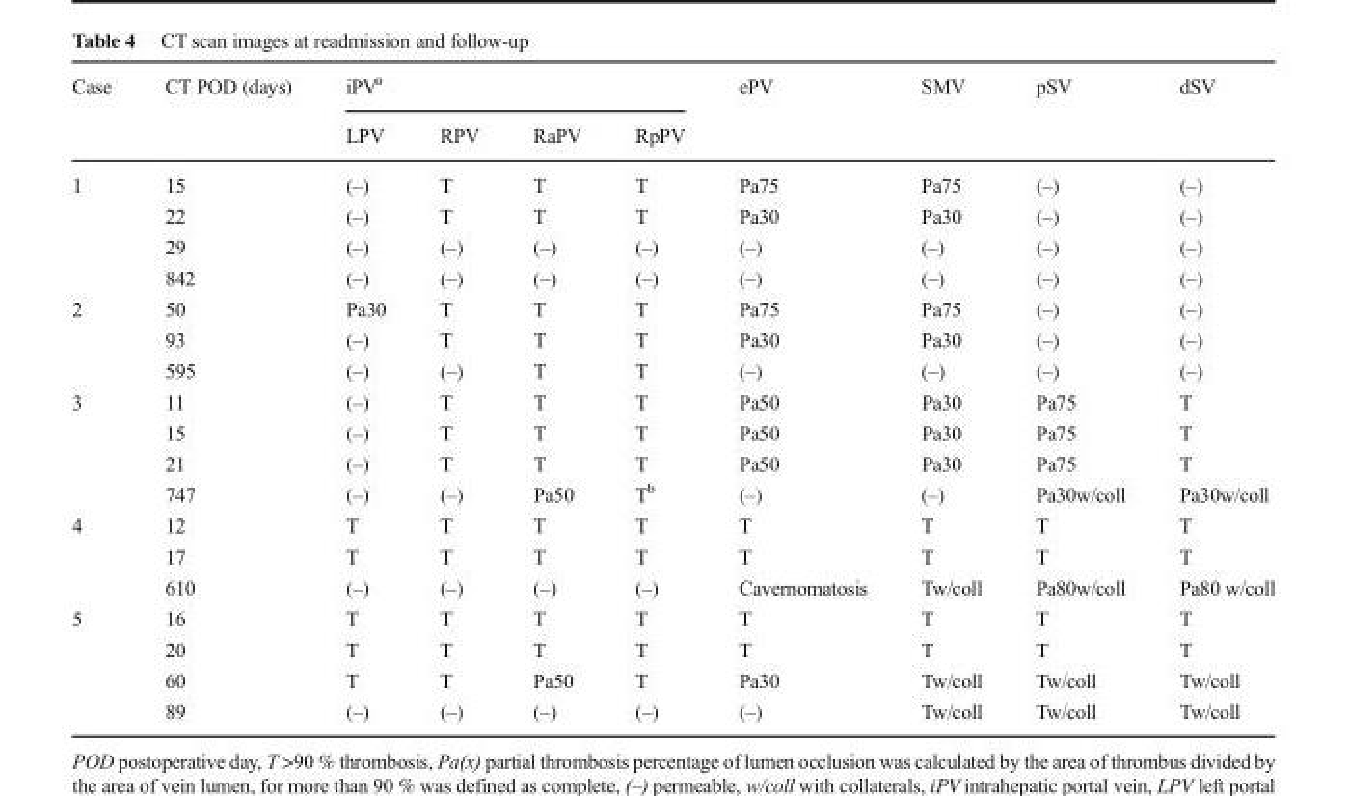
<table><thead><tr><td rowspan="2">Case</td><td rowspan="2">CT POD (days)</td><td colspan="4">iPV<sup>a</sup></td><td rowspan="2">ePV</td><td rowspan="2">SMV</td><td rowspan="2">pSV</td><td rowspan="2">dSV</td></tr><tr><td>LPV</td><td>RPV</td><td>RaPV</td><td>RpPV</td></tr></thead><tbody><tr><td rowspan="4">1</td><td>15</td><td>(–)</td><td>T</td><td>T</td><td>T</td><td>Pa75</td><td>Pa75</td><td>(–)</td><td>(–)</td></tr><tr><td>22</td><td>(–)</td><td>T</td><td>T</td><td>T</td><td>Pa30</td><td>Pa30</td><td>(–)</td><td>(–)</td></tr><tr><td>29</td><td>(–)</td><td>(–)</td><td>(–)</td><td>(–)</td><td>(–)</td><td>(–)</td><td>(–)</td><td>(–)</td></tr><tr><td>842</td><td>(–)</td><td>(–)</td><td>(–)</td><td>(–)</td><td>(–)</td><td>(–)</td><td>(–)</td><td>(–)</td></tr><tr><td rowspan="3">2</td><td>50</td><td>Pa30</td><td>T</td><td>T</td><td>T</td><td>Pa75</td><td>Pa75</td><td>(–)</td><td>(–)</td></tr><tr><td>93</td><td>(–)</td><td>T</td><td>T</td><td>T</td><td>Pa30</td><td>Pa30</td><td>(–)</td><td>(–)</td></tr><tr><td>595</td><td>(–)</td><td>(–)</td><td>T</td><td>T</td><td>(–)</td><td>(–)</td><td>(–)</td><td>(–)</td></tr><tr><td rowspan="4">3</td><td>11</td><td>(–)</td><td>T</td><td>T</td><td>T</td><td>Pa50</td><td>Pa30</td><td>Pa75</td><td>T</td></tr><tr><td>15</td><td>(–)</td><td>T</td><td>T</td><td>T</td><td>Pa50</td><td>Pa30</td><td>Pa75</td><td>T</td></tr><tr><td>21</td><td>(–)</td><td>T</td><td>T</td><td>T</td><td>Pa50</td><td>Pa30</td><td>Pa75</td><td>T</td></tr><tr><td>747</td><td>(–)</td><td>(–)</td><td>Pa50</td><td>T<sup>b</sup></td><td>(–)</td><td>(–)</td><td>Pa30w/coll</td><td>Pa30w/coll</td></tr><tr><td rowspan="3">4</td><td>12</td><td>T</td><td>T</td><td>T</td><td>T</td><td>T</td><td>T</td><td>T</td><td>T</td></tr><tr><td>17</td><td>T</td><td>T</td><td>T</td><td>T</td><td>T</td><td>T</td><td>T</td><td>T</td></tr><tr><td>610</td><td>(–)</td><td>(–)</td><td>(–)</td><td>(–)</td><td>Cavernomatosis</td><td>Tw/coll</td><td>Pa80w/coll</td><td>Pa80 w/coll</td></tr><tr><td rowspan="4">5</td><td>16</td><td>T</td><td>T</td><td>T</td><td>T</td><td>T</td><td>T</td><td>T</td><td>T</td></tr><tr><td>20</td><td>T</td><td>T</td><td>T</td><td>T</td><td>T</td><td>T</td><td>T</td><td>T</td></tr><tr><td>60</td><td>T</td><td>T</td><td>Pa50</td><td>T</td><td>Pa30</td><td>Tw/coll</td><td>Tw/coll</td><td>Tw/coll</td></tr><tr><td>89</td><td>(–)</td><td>(–)</td><td>(–)</td><td>(–)</td><td>(–)</td><td>Tw/coll</td><td>Tw/coll</td><td>Tw/coll</td></tr></tbody></table>